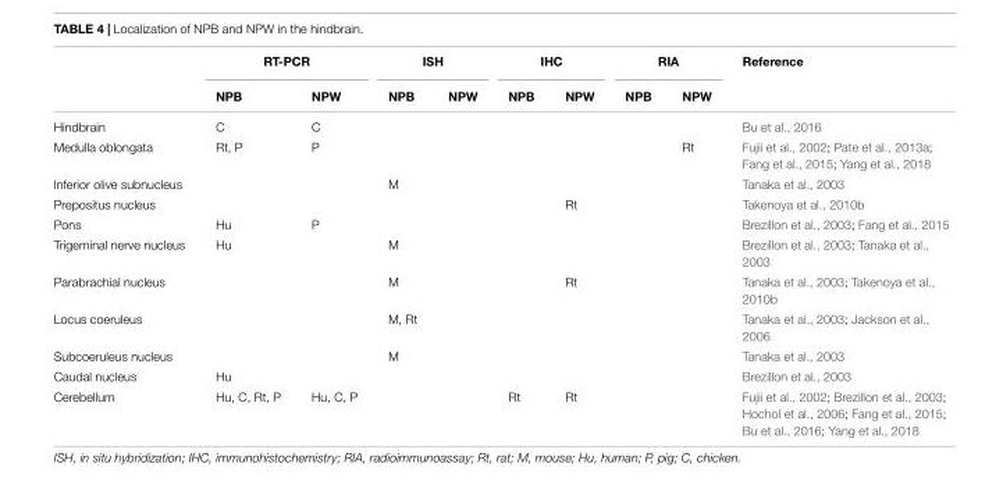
<table><thead><tr><td rowspan="2"></td><td colspan="2">RT-PCR</td><td colspan="2">ISH</td><td colspan="2">IHC</td><td colspan="2">RIA</td><td rowspan="2">Reference</td></tr><tr><td>NPB</td><td>NPW</td><td>NPB</td><td>NPW</td><td>NPB</td><td>NPW</td><td>NPB</td><td>NPW</td></tr></thead><tbody><tr><td>Hindbrain</td><td>C</td><td>C</td><td></td><td></td><td></td><td></td><td></td><td></td><td>Bu et al., 2016</td></tr><tr><td>Medulla oblongata</td><td>Rt, P</td><td>P</td><td></td><td></td><td></td><td></td><td></td><td>Rt</td><td>Fujii et al., 2002; Pate et al., 2013a; Fang et al., 2015; Yang et al., 2018</td></tr><tr><td>Inferior olive subnucleus</td><td></td><td></td><td>M</td><td></td><td></td><td></td><td></td><td></td><td>Tanaka et al., 2003</td></tr><tr><td>Prepositus nucleus</td><td></td><td></td><td></td><td></td><td></td><td>Rt</td><td></td><td></td><td>Takenoya et al., 2010b</td></tr><tr><td>Pons</td><td>Hu</td><td>P</td><td></td><td></td><td></td><td></td><td></td><td></td><td>Brezillon et al., 2003; Fang et al., 2015</td></tr><tr><td>Trigeminal nerve nucleus</td><td>Hu</td><td></td><td>M</td><td></td><td></td><td></td><td></td><td></td><td>Brezillon et al., 2003; Tanaka et al., 2003</td></tr><tr><td>Parabrachial nucleus</td><td></td><td></td><td>M</td><td></td><td></td><td>Rt</td><td></td><td></td><td>Tanaka et al., 2003; Takenoya et al., 2010b</td></tr><tr><td>Locus coeruleus</td><td></td><td></td><td>M, Rt</td><td></td><td></td><td></td><td></td><td></td><td>Tanaka et al., 2003; Jackson et al., 2006</td></tr><tr><td>Subcoeruleus nucleus</td><td></td><td></td><td>M</td><td></td><td></td><td></td><td></td><td></td><td>Tanaka et al., 2003</td></tr><tr><td>Caudal nucleus</td><td>Hu</td><td></td><td></td><td></td><td></td><td></td><td></td><td></td><td>Brezillon et al., 2003</td></tr><tr><td>Cerebellum</td><td>Hu, C, Rt, P</td><td>Hu, C, P</td><td></td><td></td><td>Rt</td><td>Rt</td><td></td><td></td><td>Fujii et al., 2002; Brezillon et al., 2003; Hochol et al., 2006; Fang et al., 2015; Bu et al., 2016; Yang et al., 2018</td></tr></tbody></table>